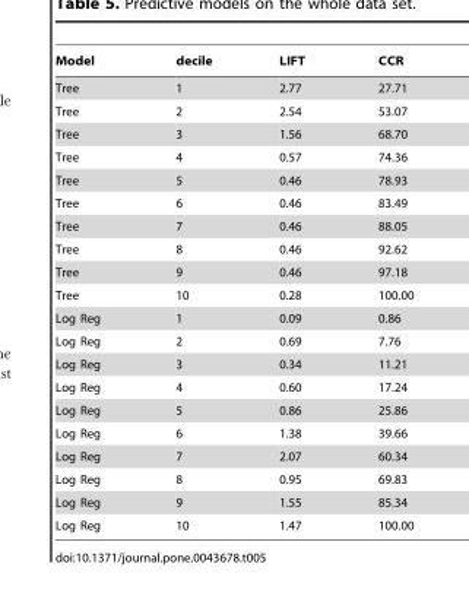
<table><thead><tr><td>Model</td><td>decile</td><td>LIFT</td><td>CCR</td></tr></thead><tbody><tr><td>Tree</td><td>1</td><td>2.77</td><td>27.71</td></tr><tr><td>Tree</td><td>2</td><td>2.54</td><td>53.07</td></tr><tr><td>Tree</td><td>3</td><td>1.56</td><td>68.70</td></tr><tr><td>Tree</td><td>4</td><td>0.57</td><td>74.36</td></tr><tr><td>Tree</td><td>5</td><td>0.46</td><td>78.93</td></tr><tr><td>Tree</td><td>6</td><td>0.46</td><td>83.49</td></tr><tr><td>Tree</td><td>7</td><td>0.46</td><td>88.05</td></tr><tr><td>Tree</td><td>8</td><td>0.46</td><td>92.62</td></tr><tr><td>Tree</td><td>9</td><td>0.46</td><td>97.18</td></tr><tr><td>Tree</td><td>10</td><td>0.28</td><td>100.00</td></tr><tr><td>Log Reg</td><td>1</td><td>0.09</td><td>0.86</td></tr><tr><td>Log Reg</td><td>2</td><td>0.69</td><td>7.76</td></tr><tr><td>Log Reg</td><td>3</td><td>0.34</td><td>11.21</td></tr><tr><td>Log Reg</td><td>4</td><td>0.60</td><td>17.24</td></tr><tr><td>Log Reg</td><td>5</td><td>0.86</td><td>25.86</td></tr><tr><td>Log Reg</td><td>6</td><td>1.38</td><td>39.66</td></tr><tr><td>Log Reg</td><td>7</td><td>2.07</td><td>60.34</td></tr><tr><td>Log Reg</td><td>8</td><td>0.95</td><td>69.83</td></tr><tr><td>Log Reg</td><td>9</td><td>1.55</td><td>85.34</td></tr><tr><td>Log Reg</td><td>10</td><td>1.47</td><td>100.00</td></tr></tbody></table>